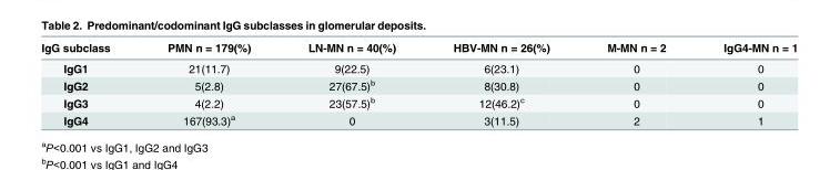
<table><thead><tr><td>IgG subclass</td><td>PMN n = 179(%)</td><td>LN-MN n = 40(%)</td><td>HBV-MN n = 26(%)</td><td>M-MN n = 2</td><td>IgG4-MN n = 1</td></tr></thead><tbody><tr><td>IgG1</td><td>21(11.7)</td><td>9(22.5)</td><td>6(23.1)</td><td>0</td><td>0</td></tr><tr><td>IgG2</td><td>5(2.8)</td><td>27(67.5)<sup>b</sup></td><td>8(30.8)</td><td>0</td><td>0</td></tr><tr><td>IgG3</td><td>4(2.2)</td><td>23(57.5)<sup>b</sup></td><td>12(46.2)<sup>c</sup></td><td>0</td><td>0</td></tr><tr><td>IgG4</td><td>167(93.3)<sup>a</sup></td><td>0</td><td>3(11.5)</td><td>2</td><td>1</td></tr></tbody></table>